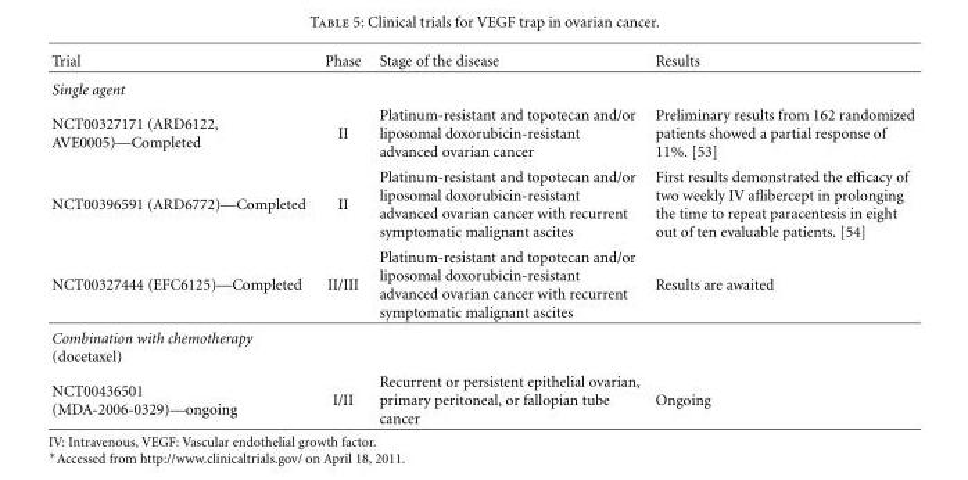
<table><thead><tr><td>Trial</td><td>Phase</td><td>Stage of the disease</td><td>Results</td></tr></thead><tbody><tr><td colspan="4">Single agent</td></tr><tr><td>NCT00327171 (ARD6122, AVE0005)—Completed</td><td>II</td><td>Platinum-resistant and topotecan and/or liposomal doxorubicin-resistant advanced ovarian cancer</td><td>Preliminary results from 162 randomized patients showed a partial response of 11%. [53]</td></tr><tr><td>NCT00396591 (ARD6772)—Completed</td><td>II</td><td>Platinum-resistant and topotecan and/or liposomal doxorubicin-resistant advanced ovarian cancer with recurrent symptomatic malignant ascites</td><td>First results demonstrated the efficacy of two weekly IV aflibercept in prolonging the time to repeat paracentesis in eight out of ten evaluable patients. [54]</td></tr><tr><td>NCT00327444 (EFC6125)—Completed</td><td>II/III</td><td>Platinum-resistant and topotecan and/or liposomal doxorubicin-resistant advanced ovarian cancer with recurrent symptomatic malignant ascites</td><td>Results are awaited</td></tr><tr><td colspan="4">Combination with chemotherapy (docetaxel)</td></tr><tr><td>NCT00436501 (MDA-2006-0329)—ongoing</td><td>I/II</td><td>Recurrent or persistent epithelial ovarian, primary peritoneal, or fallopian tube cancer</td><td>Ongoing</td></tr></tbody></table>